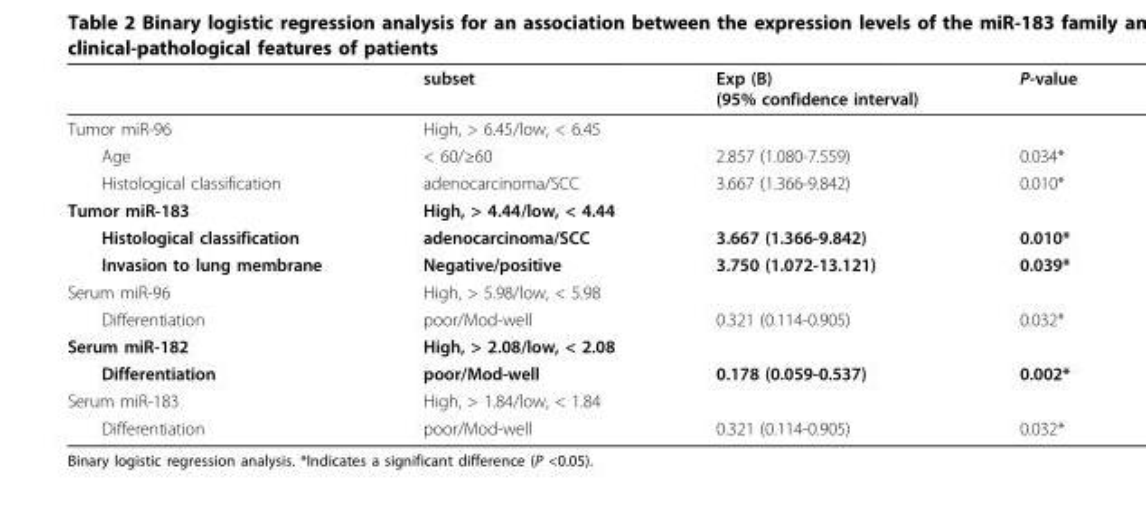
<table><thead><tr><td></td><td>subset</td><td>Exp (B) (95% confidence interval)</td><td>P-value</td></tr></thead><tbody><tr><td>Tumor miR-96</td><td>High, &gt; 6.45/low, &lt; 6.45</td><td></td><td></td></tr><tr><td>Age</td><td>&lt; 60/≥60</td><td>2.857 (1.080-7.559)</td><td>0.034*</td></tr><tr><td>Histological classification</td><td>adenocarcinoma/SCC</td><td>3.667 (1.366-9.842)</td><td>0.010*</td></tr><tr><td>Tumor miR-183</td><td>High, &gt; 4.44/low, &lt; 4.44</td><td></td><td></td></tr><tr><td>Histological classification</td><td>adenocarcinoma/SCC</td><td>3.667 (1.366-9.842)</td><td>0.010*</td></tr><tr><td>Invasion to lung membrane</td><td>Negative/positive</td><td>3.750 (1.072-13.121)</td><td>0.039*</td></tr><tr><td>Serum miR-96</td><td>High, &gt; 5.98/low, &lt; 5.98</td><td></td><td></td></tr><tr><td>Differentiation</td><td>poor/Mod-well</td><td>0.321 (0.114-0.905)</td><td>0.032*</td></tr><tr><td>Serum miR-182</td><td>High, &gt; 2.08/low, &lt; 2.08</td><td></td><td></td></tr><tr><td>Differentiation</td><td>poor/Mod-well</td><td>0.178 (0.059-0.537)</td><td>0.002*</td></tr><tr><td>Serum miR-183</td><td>High, &gt; 1.84/low, &lt; 1.84</td><td></td><td></td></tr><tr><td>Differentiation</td><td>poor/Mod-well</td><td>0.321 (0.114-0.905)</td><td>0.032*</td></tr></tbody></table>